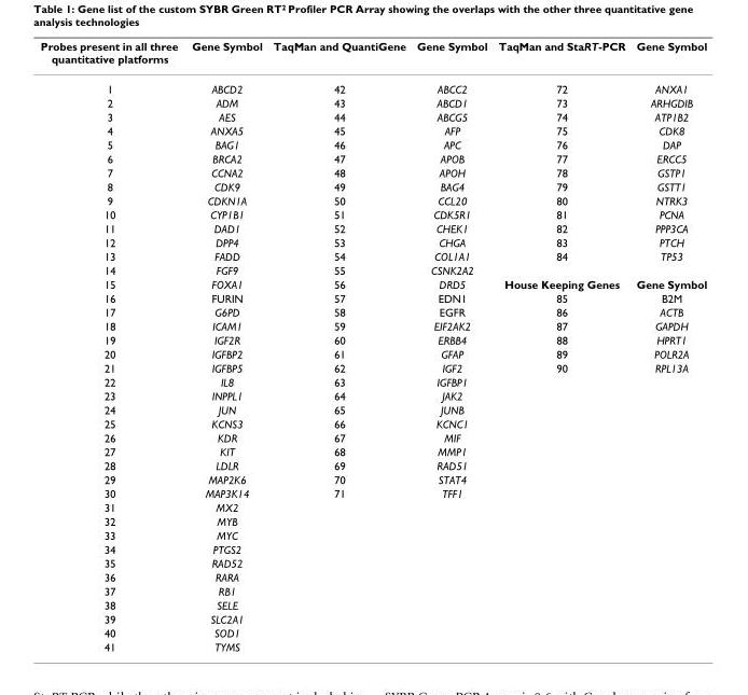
<table><thead><tr><td>Probes present in all three quantitative platforms</td><td>Gene Symbol</td><td>TaqMan and QuantiGene</td><td>Gene Symbol</td><td>TaqMan and StaRT-PCR</td><td>Gene Symbol</td></tr></thead><tbody><tr><td>1</td><td>ABCD2</td><td>42</td><td>ABCC2</td><td>72</td><td>ANXA1</td></tr><tr><td>2</td><td>ADM</td><td>43</td><td>ABCD1</td><td>73</td><td>ARHGDIB</td></tr><tr><td>3</td><td>AES</td><td>44</td><td>ABCG5</td><td>74</td><td>ATP1B2</td></tr><tr><td>4</td><td>ANXA5</td><td>45</td><td>AFP</td><td>75</td><td>CDK8</td></tr><tr><td>5</td><td>BAG1</td><td>46</td><td>APC</td><td>76</td><td>DAP</td></tr><tr><td>6</td><td>BRCA2</td><td>47</td><td>APOB</td><td>77</td><td>ERCC5</td></tr><tr><td>7</td><td>CCNA2</td><td>48</td><td>APOH</td><td>78</td><td>GSTP1</td></tr><tr><td>8</td><td>CDK9</td><td>49</td><td>BAG4</td><td>79</td><td>GSTT1</td></tr><tr><td>9</td><td>CDKN1A</td><td>50</td><td>CCL20</td><td>80</td><td>NTRK3</td></tr><tr><td>10</td><td>CYP1B1</td><td>51</td><td>CDK5R1</td><td>81</td><td>PCNA</td></tr><tr><td>11</td><td>DAD1</td><td>52</td><td>CHEK1</td><td>82</td><td>PPP3CA</td></tr><tr><td>12</td><td>DPP4</td><td>53</td><td>CHGA</td><td>83</td><td>PTCH</td></tr><tr><td>13</td><td>FADD</td><td>54</td><td>COL1A1</td><td>84</td><td>TP53</td></tr><tr><td>14</td><td>FGF9</td><td>55</td><td>CSNK2A2</td><td></td><td></td></tr><tr><td>15</td><td>FOXA1</td><td>56</td><td>DRD5</td><td>House Keeping Genes</td><td>Gene Symbol</td></tr><tr><td>16</td><td>FURIN</td><td>57</td><td>EDN1</td><td>85</td><td>B2M</td></tr><tr><td>17</td><td>G6PD</td><td>58</td><td>EGFR</td><td>86</td><td>ACTB</td></tr><tr><td>18</td><td>ICAM1</td><td>59</td><td>EIF2AK2</td><td>87</td><td>GAPDH</td></tr><tr><td>19</td><td>IGF2R</td><td>60</td><td>ERBB4</td><td>88</td><td>HPRT1</td></tr><tr><td>20</td><td>IGFBP2</td><td>61</td><td>GFAP</td><td>89</td><td>POLR2A</td></tr><tr><td>21</td><td>IGFBP5</td><td>62</td><td>IGF2</td><td>90</td><td>RPL13A</td></tr><tr><td>22</td><td>IL8</td><td>63</td><td>IGFBP1</td><td></td><td></td></tr><tr><td>23</td><td>INPPL1</td><td>64</td><td>JAK2</td><td></td><td></td></tr><tr><td>24</td><td>JUN</td><td>65</td><td>JUNB</td><td></td><td></td></tr><tr><td>25</td><td>KCNS3</td><td>66</td><td>KCNC1</td><td></td><td></td></tr><tr><td>26</td><td>KDR</td><td>67</td><td>MIF</td><td></td><td></td></tr><tr><td>27</td><td>KIT</td><td>68</td><td>MMP1</td><td></td><td></td></tr><tr><td>28</td><td>LDLR</td><td>69</td><td>RAD51</td><td></td><td></td></tr><tr><td>29</td><td>MAP2K6</td><td>70</td><td>STAT4</td><td></td><td></td></tr><tr><td>30</td><td>MAP3K14</td><td>71</td><td>TFF1</td><td></td><td></td></tr><tr><td>31</td><td>MX2</td><td></td><td></td><td></td><td></td></tr><tr><td>32</td><td>MYB</td><td></td><td></td><td></td><td></td></tr><tr><td>33</td><td>MYC</td><td></td><td></td><td></td><td></td></tr><tr><td>34</td><td>PTGS2</td><td></td><td></td><td></td><td></td></tr><tr><td>35</td><td>RAD52</td><td></td><td></td><td></td><td></td></tr><tr><td>36</td><td>RARA</td><td></td><td></td><td></td><td></td></tr><tr><td>37</td><td>RB1</td><td></td><td></td><td></td><td></td></tr><tr><td>38</td><td>SELE</td><td></td><td></td><td></td><td></td></tr><tr><td>39</td><td>SLC2A1</td><td></td><td></td><td></td><td></td></tr><tr><td>40</td><td>SOD1</td><td></td><td></td><td></td><td></td></tr><tr><td>41</td><td>TYMS</td><td></td><td></td><td></td><td></td></tr></tbody></table>